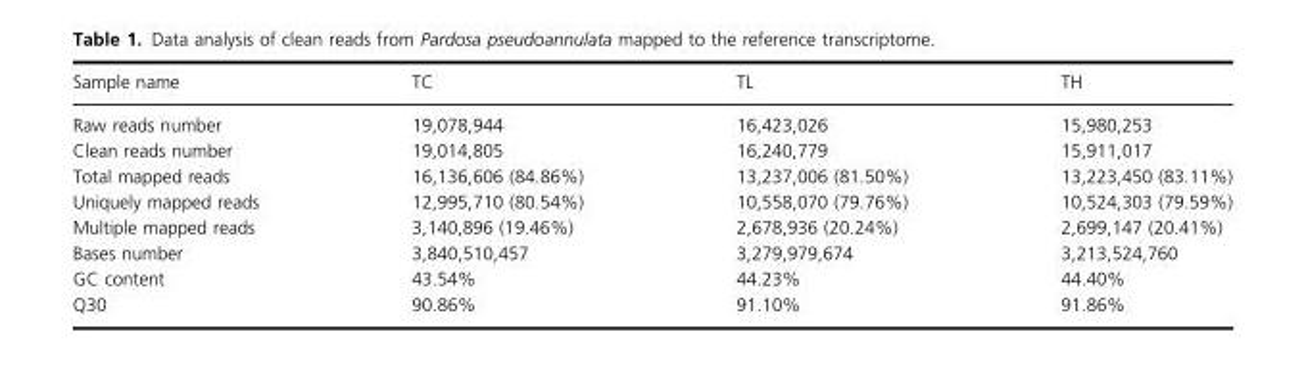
<table><thead><tr><td>Sample name</td><td>TC</td><td>TL</td><td>TH</td></tr></thead><tbody><tr><td>Raw reads number</td><td>19,078,944</td><td>16,423,026</td><td>15,980,253</td></tr><tr><td>Clean reads number</td><td>19,014,805</td><td>16,240,779</td><td>15,911,017</td></tr><tr><td>Total mapped reads</td><td>16,136,606 (84.86%)</td><td>13,237,006 (81.50%)</td><td>13,223,450 (83.11%)</td></tr><tr><td>Uniquely mapped reads</td><td>12,995,710 (80.54%)</td><td>10,558,070 (79.76%)</td><td>10,524,303 (79.59%)</td></tr><tr><td>Multiple mapped reads</td><td>3,140,896 (19.46%)</td><td>2,678,936 (20.24%)</td><td>2,699,147 (20.41%)</td></tr><tr><td>Bases number</td><td>3,840,510,457</td><td>3,279,979,674</td><td>3,213,524,760</td></tr><tr><td>GC content</td><td>43.54%</td><td>44.23%</td><td>44.40%</td></tr><tr><td>Q30</td><td>90.86%</td><td>91.10%</td><td>91.86%</td></tr></tbody></table>